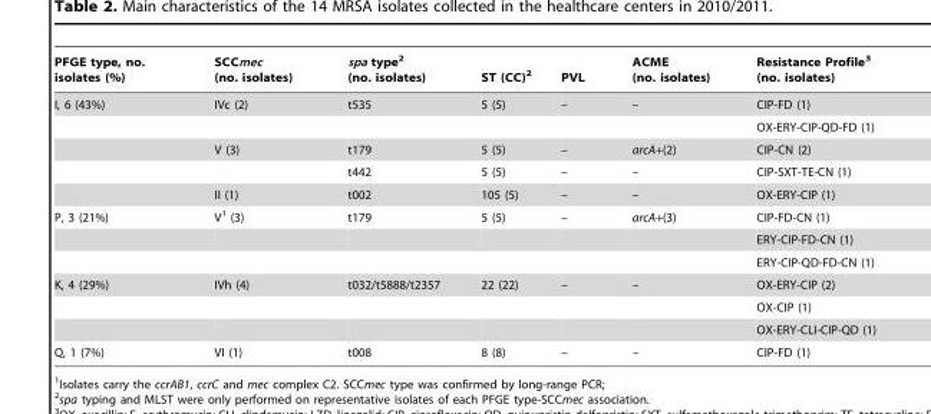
<table><thead><tr><td>PFGE type, no. isolates (%)</td><td>SCCmec (no. isolates)</td><td>spa type<sup>2</sup> (no. isolates)</td><td>ST (CC)<sup>2</sup></td><td>PVL</td><td>ACME (no. isolates)</td><td>Resistance Profile<sup>3</sup> (no. isolates)</td></tr></thead><tbody><tr><td rowspan="5">I, 6 (43%)</td><td>IVc (2)</td><td>t535</td><td>5 (5)</td><td>–</td><td>–</td><td>CIP-FD (1)</td></tr><tr><td></td><td></td><td></td><td></td><td></td><td>OX-ERY-CIP-QD-FD (1)</td></tr><tr><td>V (3)</td><td>t179</td><td>5 (5)</td><td>–</td><td>arcA+(2)</td><td>CIP-CN (2)</td></tr><tr><td></td><td>t442</td><td>5 (5)</td><td>–</td><td>–</td><td>CIP-SXT-TE-CN (1)</td></tr><tr><td>II (1)</td><td>t002</td><td>105 (5)</td><td>–</td><td>–</td><td>OX-ERY-CIP (1)</td></tr><tr><td rowspan="3">P, 3 (21%)</td><td>V<sup>1</sup> (3)</td><td>t179</td><td>5 (5)</td><td>–</td><td>arcA+(3)</td><td>CIP-FD-CN (1)</td></tr><tr><td></td><td></td><td></td><td></td><td></td><td>ERY-CIP-FD-CN (1)</td></tr><tr><td></td><td></td><td></td><td></td><td></td><td>ERY-CIP-QD-FD-CN (1)</td></tr><tr><td rowspan="3">K, 4 (29%)</td><td>IVh (4)</td><td>t032/t5888/t2357</td><td>22 (22)</td><td>–</td><td>–</td><td>OX-ERY-CIP (2)</td></tr><tr><td></td><td></td><td></td><td></td><td></td><td>OX-CIP (1)</td></tr><tr><td></td><td></td><td></td><td></td><td></td><td>OX-ERY-CLI-CIP-QD (1)</td></tr><tr><td>Q, 1 (7%)</td><td>VI (1)</td><td>t008</td><td>8 (8)</td><td>–</td><td>–</td><td>CIP-FD (1)</td></tr></tbody></table>